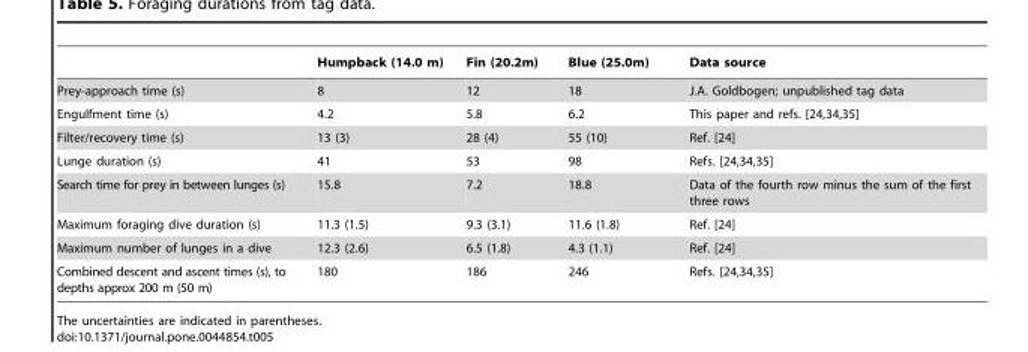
<table><thead><tr><td></td><td>Humpback (14.0 m)</td><td>Fin (20.2m)</td><td>Blue (25.0m)</td><td>Data source</td></tr></thead><tbody><tr><td>Prey-approach time (s)</td><td>8</td><td>12</td><td>18</td><td>J.A. Goldbogen; unpublished tag data</td></tr><tr><td>Engulfment time (s)</td><td>4.2</td><td>5.8</td><td>6.2</td><td>This paper and refs. [24,34,35]</td></tr><tr><td>Filter/recovery time (s)</td><td>13 (3)</td><td>28 (4)</td><td>55 (10)</td><td>Ref. [24]</td></tr><tr><td>Lunge duration (s)</td><td>41</td><td>53</td><td>98</td><td>Refs. [24,34,35]</td></tr><tr><td>Search time for prey in between lunges (s)</td><td>15.8</td><td>7.2</td><td>18.8</td><td>Data of the fourth row minus the sum of the first three rows</td></tr><tr><td>Maximum foraging dive duration (s)</td><td>11.3 (1.5)</td><td>9.3 (3.1)</td><td>11.6 (1.8)</td><td>Ref. [24]</td></tr><tr><td>Maximum number of lunges in a dive</td><td>12.3 (2.6)</td><td>6.5 (1.8)</td><td>4.3 (1.1)</td><td>Ref. [24]</td></tr><tr><td>Combined descent and ascent times (s), to depths approx 200 m (50 m)</td><td>180</td><td>186</td><td>246</td><td>Refs. [24,34,35]</td></tr></tbody></table>